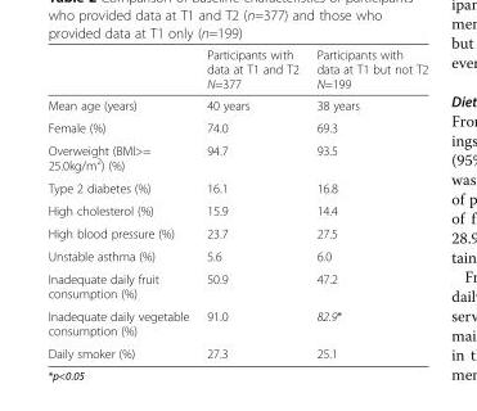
<table><thead><tr><td></td><td>Participants with data at T1 and T2 N=377</td><td>Participants with data at T1 but not T2 N=199</td></tr></thead><tbody><tr><td>Mean age (years)</td><td>40 years</td><td>38 years</td></tr><tr><td>Female (%)</td><td>74.0</td><td>69.3</td></tr><tr><td>Overweight (BMI&gt;= 25.0kg/m<sup>2</sup>) (%)</td><td>94.7</td><td>93.5</td></tr><tr><td>Type 2 diabetes (%)</td><td>16.1</td><td>16.8</td></tr><tr><td>High cholesterol (%)</td><td>15.9</td><td>14.4</td></tr><tr><td>High blood pressure (%)</td><td>23.7</td><td>27.5</td></tr><tr><td>Unstable asthma (%)</td><td>5.6</td><td>6.0</td></tr><tr><td>Inadequate daily fruit consumption (%)</td><td>50.9</td><td>47.2</td></tr><tr><td>Inadequate daily vegetable consumption (%)</td><td>91.0</td><td>82.9*</td></tr><tr><td>Daily smoker (%)</td><td>27.3</td><td>25.1</td></tr></tbody></table>